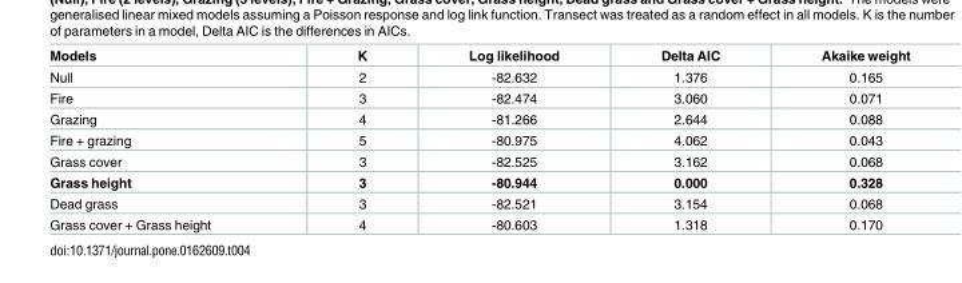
<table><thead><tr><td>Models</td><td>K</td><td>Log likelihood</td><td>Delta AIC</td><td>Akaike weight</td></tr></thead><tbody><tr><td>Null</td><td>2</td><td>-82.632</td><td>1.376</td><td>0.165</td></tr><tr><td>Fire</td><td>3</td><td>-82.474</td><td>3.060</td><td>0.071</td></tr><tr><td>Grazing</td><td>4</td><td>-81.266</td><td>2.644</td><td>0.088</td></tr><tr><td>Fire + grazing</td><td>5</td><td>-80.975</td><td>4.062</td><td>0.043</td></tr><tr><td>Grass cover</td><td>3</td><td>-82.525</td><td>3.162</td><td>0.068</td></tr><tr><td>Grass height</td><td>3</td><td>-80.944</td><td>0.000</td><td>0.328</td></tr><tr><td>Dead grass</td><td>3</td><td>-82.521</td><td>3.154</td><td>0.068</td></tr><tr><td>Grass cover + Grass height</td><td>4</td><td>-80.603</td><td>1.318</td><td>0.170</td></tr></tbody></table>